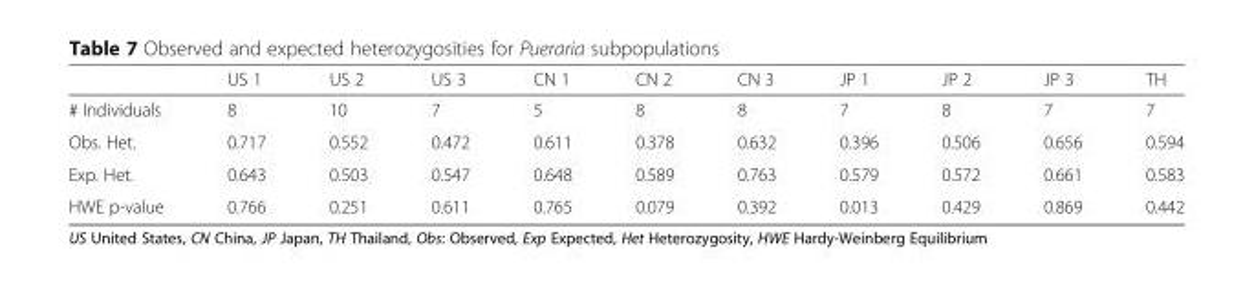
<table><thead><tr><td></td><td>US 1</td><td>US 2</td><td>US 3</td><td>CN 1</td><td>CN 2</td><td>CN 3</td><td>JP 1</td><td>JP 2</td><td>JP 3</td><td>TH</td></tr></thead><tbody><tr><td># Individuals</td><td>8</td><td>10</td><td>7</td><td>5</td><td>8</td><td>8</td><td>7</td><td>8</td><td>7</td><td>7</td></tr><tr><td>Obs. Het.</td><td>0.717</td><td>0.552</td><td>0.472</td><td>0.611</td><td>0.378</td><td>0.632</td><td>0.396</td><td>0.506</td><td>0.656</td><td>0.594</td></tr><tr><td>Exp. Het.</td><td>0.643</td><td>0.503</td><td>0.547</td><td>0.648</td><td>0.589</td><td>0.763</td><td>0.579</td><td>0.572</td><td>0.661</td><td>0.583</td></tr><tr><td>HWE p-value</td><td>0.766</td><td>0.251</td><td>0.611</td><td>0.765</td><td>0.079</td><td>0.392</td><td>0.013</td><td>0.429</td><td>0.869</td><td>0.442</td></tr></tbody></table>